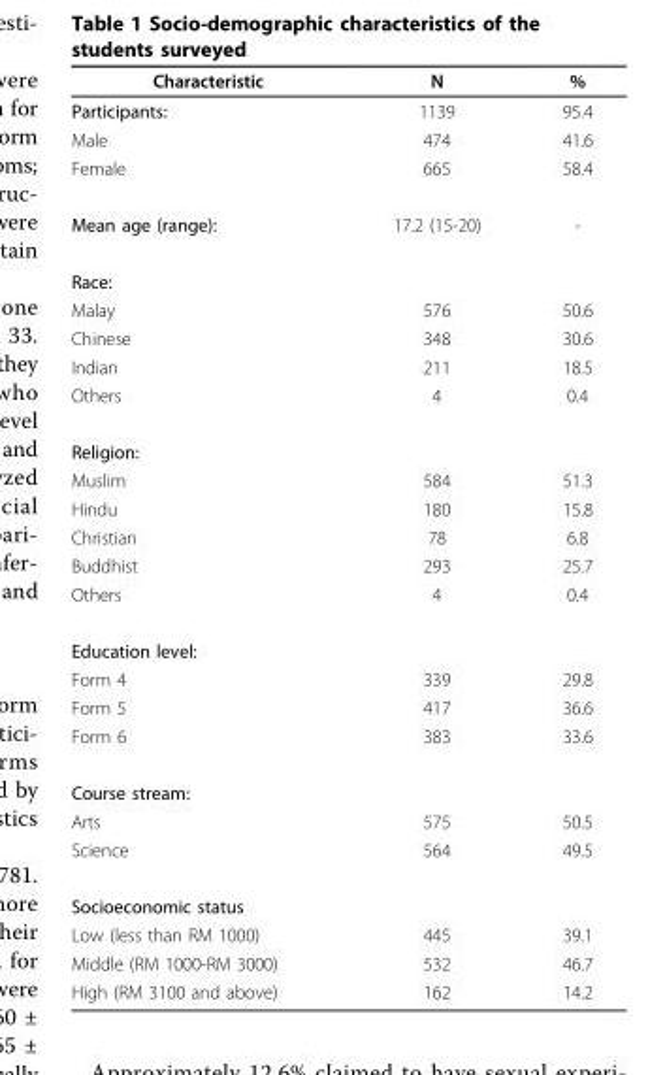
<table><thead><tr><td>Characteristic</td><td>N</td><td>%</td></tr></thead><tbody><tr><td>Participants:</td><td>1139</td><td>95.4</td></tr><tr><td>Male</td><td>474</td><td>41.6</td></tr><tr><td>Female</td><td>665</td><td>58.4</td></tr><tr><td>Mean age (range):</td><td>17.2 (15-20)</td><td>-</td></tr><tr><td colspan="3">Race:</td></tr><tr><td>Malay</td><td>576</td><td>50.6</td></tr><tr><td>Chinese</td><td>348</td><td>30.6</td></tr><tr><td>Indian</td><td>211</td><td>18.5</td></tr><tr><td>Others</td><td>4</td><td>0.4</td></tr><tr><td colspan="3">Religion:</td></tr><tr><td>Muslim</td><td>584</td><td>51.3</td></tr><tr><td>Hindu</td><td>180</td><td>15.8</td></tr><tr><td>Christian</td><td>78</td><td>6.8</td></tr><tr><td>Buddhist</td><td>293</td><td>25.7</td></tr><tr><td>Others</td><td>4</td><td>0.4</td></tr><tr><td colspan="3">Education level:</td></tr><tr><td>Form 4</td><td>339</td><td>29.8</td></tr><tr><td>Form 5</td><td>417</td><td>36.6</td></tr><tr><td>Form 6</td><td>383</td><td>33.6</td></tr><tr><td colspan="3">Course stream:</td></tr><tr><td>Arts</td><td>575</td><td>50.5</td></tr><tr><td>Science</td><td>564</td><td>49.5</td></tr><tr><td colspan="3">Socioeconomic status</td></tr><tr><td>Low (less than RM 1000)</td><td>445</td><td>39.1</td></tr><tr><td>Middle (RM 1000-RM 3000)</td><td>532</td><td>46.7</td></tr><tr><td>High (RM 3100 and above)</td><td>162</td><td>14.2</td></tr></tbody></table>